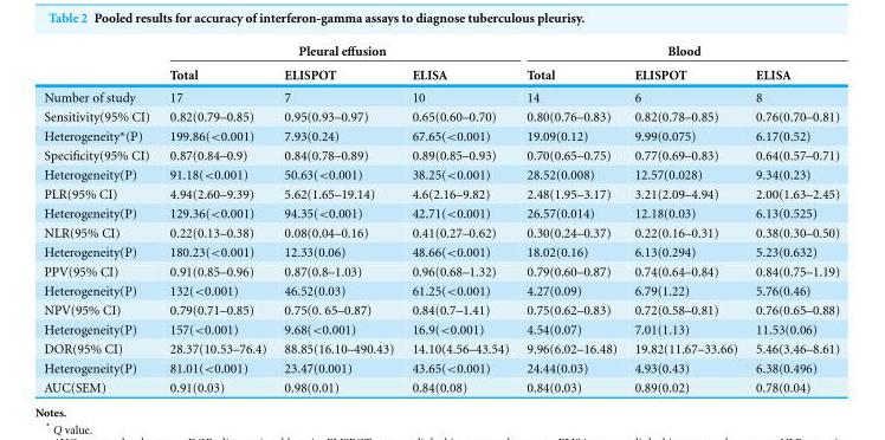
<table><thead><tr><td rowspan="2"></td><td colspan="3">Pleural effusion</td><td colspan="3">Blood</td></tr><tr><td>Total</td><td>ELISPOT</td><td>ELISA</td><td>Total</td><td>ELISPOT</td><td>ELISA</td></tr></thead><tbody><tr><td>Number of study</td><td>17</td><td>7</td><td>10</td><td>14</td><td>6</td><td>8</td></tr><tr><td>Sensitivity(95% CI)</td><td>0.82(0.79–0.85)</td><td>0.95(0.93–0.97)</td><td>0.65(0.60–0.70)</td><td>0.80(0.76–0.83)</td><td>0.82(0.78–0.85)</td><td>0.76(0.70–0.81)</td></tr><tr><td>Heterogeneity*(P)</td><td>199.86(&lt;0.001)</td><td>7.93(0.24)</td><td>67.65(&lt;0.001)</td><td>19.09(0.12)</td><td>9.99(0.075)</td><td>6.17(0.52)</td></tr><tr><td>Specificity(95% CI)</td><td>0.87(0.84–0.9)</td><td>0.84(0.78–0.89)</td><td>0.89(0.85–0.93)</td><td>0.70(0.65–0.75)</td><td>0.77(0.69–0.83)</td><td>0.64(0.57–0.71)</td></tr><tr><td>Heterogeneity(P)</td><td>91.18(&lt;0.001)</td><td>50.63(&lt;0.001)</td><td>38.25(&lt;0.001)</td><td>28.52(0.008)</td><td>12.57(0.028)</td><td>9.34(0.23)</td></tr><tr><td>PLR(95% CI)</td><td>4.94(2.60–9.39)</td><td>5.62(1.65–19.14)</td><td>4.6(2.16–9.82)</td><td>2.48(1.95–3.17)</td><td>3.21(2.09–4.94)</td><td>2.00(1.63–2.45)</td></tr><tr><td>Heterogeneity(P)</td><td>129.36(&lt;0.001)</td><td>94.35(&lt;0.001)</td><td>42.71(&lt;0.001)</td><td>26.57(0.014)</td><td>12.18(0.03)</td><td>6.13(0.525)</td></tr><tr><td>NLR(95% CI)</td><td>0.22(0.13–0.38)</td><td>0.08(0.04–0.16)</td><td>0.41(0.27–0.62)</td><td>0.30(0.24–0.37)</td><td>0.22(0.16–0.31)</td><td>0.38(0.30–0.50)</td></tr><tr><td>Heterogeneity(P)</td><td>180.23(&lt;0.001)</td><td>12.33(0.06)</td><td>48.66(&lt;0.001)</td><td>18.02(0.16)</td><td>6.13(0.294)</td><td>5.23(0.632)</td></tr><tr><td>PPV(95% CI)</td><td>0.91(0.85–0.96)</td><td>0.87(0.8–1.03)</td><td>0.96(0.68–1.32)</td><td>0.79(0.60–0.87)</td><td>0.74(0.64–0.84)</td><td>0.84(0.75–1.19)</td></tr><tr><td>Heterogeneity(P)</td><td>132(&lt;0.001)</td><td>46.52(0.03)</td><td>61.25(&lt;0.001)</td><td>4.27(0.09)</td><td>6.79(1.22)</td><td>5.76(0.46)</td></tr><tr><td>NPV(95% CI)</td><td>0.79(0.71–0.85)</td><td>0.75(0. 65–0.87)</td><td>0.84(0.7–1.41)</td><td>0.75(0.62–0.83)</td><td>0.72(0.58–0.81)</td><td>0.76(0.65–0.88)</td></tr><tr><td>Heterogeneity(P)</td><td>157(&lt;0.001)</td><td>9.68(&lt;0.001)</td><td>16.9(&lt;0.001)</td><td>4.54(0.07)</td><td>7.01(1.13)</td><td>11.53(0.06)</td></tr><tr><td>DOR(95% CI)</td><td>28.37(10.53–76.4)</td><td>88.85(16.10–490.43)</td><td>14.10(4.56–43.54)</td><td>9.96(6.02–16.48)</td><td>19.82(11.67–33.66)</td><td>5.46(3.46–8.61)</td></tr><tr><td>Heterogeneity(P)</td><td>81.01(&lt;0.001)</td><td>23.47(0.001)</td><td>43.65(&lt;0.001)</td><td>24.44(0.03)</td><td>4.93(0.43)</td><td>6.38(0.496)</td></tr><tr><td>AUC(SEM)</td><td>0.91(0.03)</td><td>0.98(0.01)</td><td>0.84(0.08)</td><td>0.84(0.03)</td><td>0.89(0.02)</td><td>0.78(0.04)</td></tr></tbody></table>